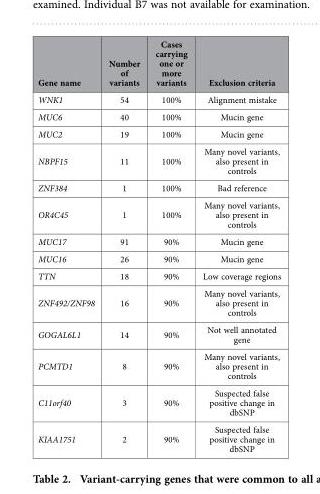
<table><thead><tr><td>Gene name</td><td>Number of variants</td><td>Cases carrying one or more variants</td><td>Exclusion criteria</td></tr></thead><tbody><tr><td>WNK1</td><td>54</td><td>100%</td><td>Alignment mistake</td></tr><tr><td>MUC6</td><td>40</td><td>100%</td><td>Mucin gene</td></tr><tr><td>MUC2</td><td>19</td><td>100%</td><td>Mucin gene</td></tr><tr><td>NBPF15</td><td>11</td><td>100%</td><td>Many novel variants, also present in controls</td></tr><tr><td>ZNF384</td><td>1</td><td>100%</td><td>Bad reference</td></tr><tr><td>OR4C45</td><td>1</td><td>100%</td><td>Many novel variants, also present in controls</td></tr><tr><td>MUC17</td><td>91</td><td>90%</td><td>Mucin gene</td></tr><tr><td>MUC16</td><td>26</td><td>90%</td><td>Mucin gene</td></tr><tr><td>TTN</td><td>18</td><td>90%</td><td>Low coverage regions</td></tr><tr><td>ZNF492/ZNF98</td><td>16</td><td>90%</td><td>Many novel variants, also present in controls</td></tr><tr><td>GOGAL6L1</td><td>14</td><td>90%</td><td>Not well annotated gene</td></tr><tr><td>PCMTD1</td><td>8</td><td>90%</td><td>Many novel variants, also present in controls</td></tr><tr><td>C11orf40</td><td>3</td><td>90%</td><td>Suspected false positive change in dbSNP</td></tr><tr><td>KIAA1751</td><td>2</td><td>90%</td><td>Suspected false positive change in dbSNP</td></tr></tbody></table>